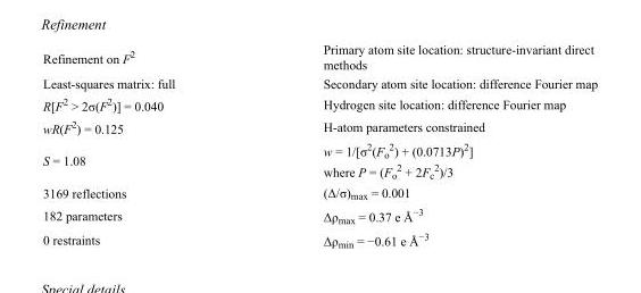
<table><tbody><tr><td>Refinement on F<sup>2</sup></td><td>Primary atom site location: structure-invariant direct methods</td></tr><tr><td>Least-squares matrix: full</td><td>Secondary atom site location: difference Fourier map</td></tr><tr><td>R[F<sup>2</sup> &gt; 2σ(F<sup>2</sup>)] = 0.040</td><td>Hydrogen site location: difference Fourier map</td></tr><tr><td>wR(F<sup>2</sup>) = 0.125</td><td>H-atom parameters constrained</td></tr><tr><td>S = 1.08</td><td>w = 1/[σ<sup>2</sup>(F<sub>o</sub> <sup>2</sup>) + (0.0713P)<sup>2</sup>] where P = (F<sub>o</sub> <sup>2</sup> + 2F<sub>c</sub> <sup>2</sup>)/3</td></tr><tr><td>3169 reflections</td><td>(Δ/σ)<sub>max</sub> = 0.001</td></tr><tr><td>182 parameters</td><td>Δρ<sub>max</sub> = 0.37 e Å<sup>−3</sup></td></tr><tr><td>0 restraints</td><td>Δρ<sub>min</sub> = −0.61 e Å<sup>−3</sup></td></tr></tbody></table>